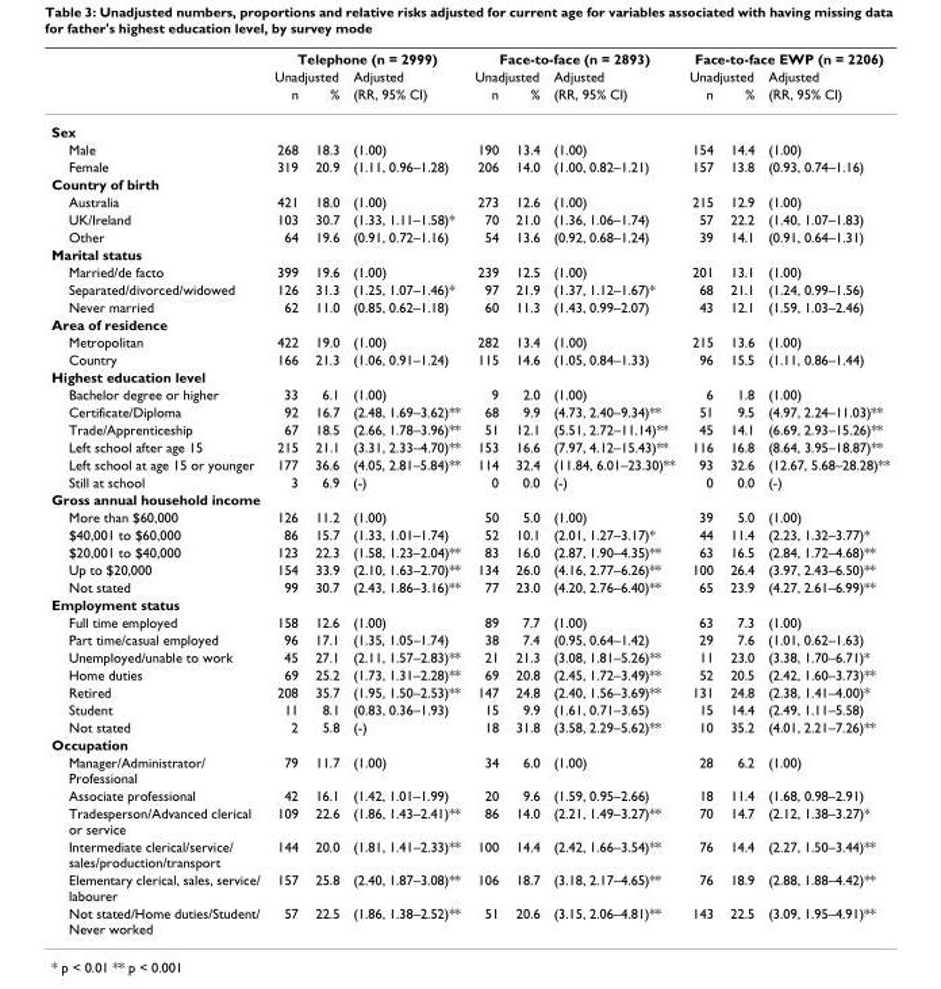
<table><thead><tr><td rowspan="3"></td><td colspan="3">Telephone (n = 2999)</td><td colspan="3">Face-to-face (n = 2893)</td><td colspan="3">Face-to-face EWP (n = 2206)</td></tr><tr><td colspan="2">Unadjusted</td><td rowspan="2">Adjusted (RR, 95% CI)</td><td colspan="2">Unadjusted</td><td rowspan="2">Adjusted (RR, 95% CI)</td><td colspan="2">Unadjusted</td><td rowspan="2">Adjusted (RR, 95% CI)</td></tr><tr><td>n</td><td>%</td><td>n</td><td>%</td><td>n</td><td>%</td></tr></thead><tbody><tr><td colspan="10">Sex</td></tr><tr><td>Male</td><td>268</td><td>18.3</td><td>(1.00)</td><td>190</td><td>13.4</td><td>(1.00)</td><td>154</td><td>14.4</td><td>(1.00)</td></tr><tr><td>Female</td><td>319</td><td>20.9</td><td>(1.11, 0.96–1.28)</td><td>206</td><td>14.0</td><td>(1.00, 0.82–1.21)</td><td>157</td><td>13.8</td><td>(0.93, 0.74–1.16)</td></tr><tr><td colspan="10">Country of birth</td></tr><tr><td>Australia</td><td>421</td><td>18.0</td><td>(1.00)</td><td>273</td><td>12.6</td><td>(1.00)</td><td>215</td><td>12.9</td><td>(1.00)</td></tr><tr><td>UK/Ireland</td><td>103</td><td>30.7</td><td>(1.33, 1.11–1.58)*</td><td>70</td><td>21.0</td><td>(1.36, 1.06–1.74)</td><td>57</td><td>22.2</td><td>(1.40, 1.07–1.83)</td></tr><tr><td>Other</td><td>64</td><td>19.6</td><td>(0.91, 0.72–1.16)</td><td>54</td><td>13.6</td><td>(0.92, 0.68–1.24)</td><td>39</td><td>14.1</td><td>(0.91, 0.64–1.31)</td></tr><tr><td colspan="10">Marital status</td></tr><tr><td>Married/de facto</td><td>399</td><td>19.6</td><td>(1.00)</td><td>239</td><td>12.5</td><td>(1.00)</td><td>201</td><td>13.1</td><td>(1.00)</td></tr><tr><td>Separated/divorced/widowed</td><td>126</td><td>31.3</td><td>(1.25, 1.07–1.46)*</td><td>97</td><td>21.9</td><td>(1.37, 1.12–1.67)*</td><td>68</td><td>21.1</td><td>(1.24, 0.99–1.56)</td></tr><tr><td>Never married</td><td>62</td><td>11.0</td><td>(0.85, 0.62–1.18)</td><td>60</td><td>11.3</td><td>(1.43, 0.99–2.07)</td><td>43</td><td>12.1</td><td>(1.59, 1.03–2.46)</td></tr><tr><td colspan="10">Area of residence</td></tr><tr><td>Metropolitan</td><td>422</td><td>19.0</td><td>(1.00)</td><td>282</td><td>13.4</td><td>(1.00)</td><td>215</td><td>13.6</td><td>(1.00)</td></tr><tr><td>Country</td><td>166</td><td>21.3</td><td>(1.06, 0.91–1.24)</td><td>115</td><td>14.6</td><td>(1.05, 0.84–1.33)</td><td>96</td><td>15.5</td><td>(1.11, 0.86–1.44)</td></tr><tr><td colspan="10">Highest education level</td></tr><tr><td>Bachelor degree or higher</td><td>33</td><td>6.1</td><td>(1.00)</td><td>9</td><td>2.0</td><td>(1.00)</td><td>6</td><td>1.8</td><td>(1.00)</td></tr><tr><td>Certificate/Diploma</td><td>92</td><td>16.7</td><td>(2.48, 1.69–3.62)**</td><td>68</td><td>9.9</td><td>(4.73, 2.40–9.34)**</td><td>51</td><td>9.5</td><td>(4.97, 2.24–11.03)**</td></tr><tr><td>Trade/Apprenticeship</td><td>67</td><td>18.5</td><td>(2.66, 1.78–3.96)**</td><td>51</td><td>12.1</td><td>(5.51, 2.72–11.14)**</td><td>45</td><td>14.1</td><td>(6.69, 2.93–15.26)**</td></tr><tr><td>Left school after age 15</td><td>215</td><td>21.1</td><td>(3.31, 2.33–4.70)**</td><td>153</td><td>16.6</td><td>(7.97, 4.12–15.43)**</td><td>116</td><td>16.8</td><td>(8.64, 3.95–18.87)**</td></tr><tr><td>Left school at age 15 or younger</td><td>177</td><td>36.6</td><td>(4.05, 2.81–5.84)**</td><td>114</td><td>32.4</td><td>(11.84, 6.01–23.30)**</td><td>93</td><td>32.6</td><td>(12.67, 5.68–28.28)**</td></tr><tr><td>Still at school</td><td>3</td><td>6.9</td><td>(-)</td><td>0</td><td>0.0</td><td>(-)</td><td>0</td><td>0.0</td><td>(-)</td></tr><tr><td colspan="10">Gross annual household income</td></tr><tr><td>More than $60,000</td><td>126</td><td>11.2</td><td>(1.00)</td><td>50</td><td>5.0</td><td>(1.00)</td><td>39</td><td>5.0</td><td>(1.00)</td></tr><tr><td>$40,001 to $60,000</td><td>86</td><td>15.7</td><td>(1.33, 1.01–1.74)</td><td>52</td><td>10.1</td><td>(2.01, 1.27–3.17)*</td><td>44</td><td>11.4</td><td>(2.23, 1.32–3.77)*</td></tr><tr><td>$20,001 to $40,000</td><td>123</td><td>22.3</td><td>(1.58, 1.23–2.04)**</td><td>83</td><td>16.0</td><td>(2.87, 1.90–4.35)**</td><td>63</td><td>16.5</td><td>(2.84, 1.72–4.68)**</td></tr><tr><td>Up to $20,000</td><td>154</td><td>33.9</td><td>(2.10, 1.63–2.70)**</td><td>134</td><td>26.0</td><td>(4.16, 2.77–6.26)**</td><td>100</td><td>26.4</td><td>(3.97, 2.43–6.50)**</td></tr><tr><td>Not stated</td><td>99</td><td>30.7</td><td>(2.43, 1.86–3.16)**</td><td>77</td><td>23.0</td><td>(4.20, 2.76–6.40)**</td><td>65</td><td>23.9</td><td>(4.27, 2.61–6.99)**</td></tr><tr><td colspan="10">Employment status</td></tr><tr><td>Full time employed</td><td>158</td><td>12.6</td><td>(1.00)</td><td>89</td><td>7.7</td><td>(1.00)</td><td>63</td><td>7.3</td><td>(1.00)</td></tr><tr><td>Part time/casual employed</td><td>96</td><td>17.1</td><td>(1.35, 1.05–1.74)</td><td>38</td><td>7.4</td><td>(0.95, 0.64–1.42)</td><td>29</td><td>7.6</td><td>(1.01, 0.62–1.63)</td></tr><tr><td>Unemployed/unable to work</td><td>45</td><td>27.1</td><td>(2.11, 1.57–2.83)**</td><td>21</td><td>21.3</td><td>(3.08, 1.81–5.26)**</td><td>11</td><td>23.0</td><td>(3.38, 1.70–6.71)*</td></tr><tr><td>Home duties</td><td>69</td><td>25.2</td><td>(1.73, 1.31–2.28)**</td><td>69</td><td>20.8</td><td>(2.45, 1.72–3.49)**</td><td>52</td><td>20.5</td><td>(2.42, 1.60–3.73)**</td></tr><tr><td>Retired</td><td>208</td><td>35.7</td><td>(1.95, 1.50–2.53)**</td><td>147</td><td>24.8</td><td>(2.40, 1.56–3.69)**</td><td>131</td><td>24.8</td><td>(2.38, 1.41–4.00)*</td></tr><tr><td>Student</td><td>11</td><td>8.1</td><td>(0.83, 0.36–1.93)</td><td>15</td><td>9.9</td><td>(1.61, 0.71–3.65)</td><td>15</td><td>14.4</td><td>(2.49, 1.11–5.58)</td></tr><tr><td>Not stated</td><td>2</td><td>5.8</td><td>(-)</td><td>18</td><td>31.8</td><td>(3.58, 2.29–5.62)**</td><td>10</td><td>35.2</td><td>(4.01, 2.21–7.26)**</td></tr><tr><td colspan="10">Occupation</td></tr><tr><td>Manager/Administrator/ Professional</td><td>79</td><td>11.7</td><td>(1.00)</td><td>34</td><td>6.0</td><td>(1.00)</td><td>28</td><td>6.2</td><td>(1.00)</td></tr><tr><td>Associate professional</td><td>42</td><td>16.1</td><td>(1.42, 1.01–1.99)</td><td>20</td><td>9.6</td><td>(1.59, 0.95–2.66)</td><td>18</td><td>11.4</td><td>(1.68, 0.98–2.91)</td></tr><tr><td>Tradesperson/Advanced clerical or service</td><td>109</td><td>22.6</td><td>(1.86, 1.43–2.41)**</td><td>86</td><td>14.0</td><td>(2.21, 1.49–3.27)**</td><td>70</td><td>14.7</td><td>(2.12, 1.38–3.27)*</td></tr><tr><td>Intermediate clerical/service/ sales/production/transport</td><td>144</td><td>20.0</td><td>(1.81, 1.41–2.33)**</td><td>100</td><td>14.4</td><td>(2.42, 1.66–3.54)**</td><td>76</td><td>14.4</td><td>(2.27, 1.50–3.44)**</td></tr><tr><td>Elementary clerical, sales, service/ labourer</td><td>157</td><td>25.8</td><td>(2.40, 1.87–3.08)**</td><td>106</td><td>18.7</td><td>(3.18, 2.17–4.65)**</td><td>76</td><td>18.9</td><td>(2.88, 1.88–4.42)**</td></tr><tr><td>Not stated/Home duties/Student/ Never worked</td><td>57</td><td>22.5</td><td>(1.86, 1.38–2.52)**</td><td>51</td><td>20.6</td><td>(3.15, 2.06–4.81)**</td><td>143</td><td>22.5</td><td>(3.09, 1.95–4.91)**</td></tr></tbody></table>